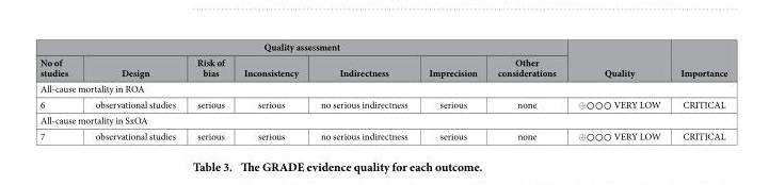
<table><thead><tr><td colspan="7">Quality assessment</td><td rowspan="2">Quality</td><td rowspan="2">Importance</td></tr><tr><td>No of studies</td><td>Design</td><td>Risk of bias</td><td>Inconsistency</td><td>Indirectness</td><td>Imprecision</td><td>Other considerations</td></tr></thead><tbody><tr><td colspan="9">All-cause mortality in ROA</td></tr><tr><td>6</td><td>observational studies</td><td>serious</td><td>serious</td><td>no serious indirectness</td><td>serious</td><td>none</td><td>⊕ ○ ○ ○ VERY LOW</td><td>CRITICAL</td></tr><tr><td colspan="9">All-cause mortality in SxOA</td></tr><tr><td>7</td><td>observational studies</td><td>serious</td><td>serious</td><td>no serious indirectness</td><td>serious</td><td>none</td><td>⊕ ○ ○ ○ VERY LOW</td><td>CRITICAL</td></tr></tbody></table>